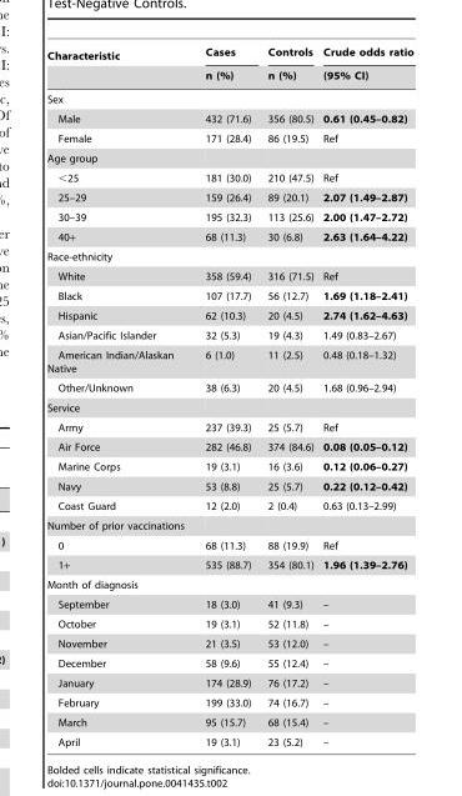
<table><thead><tr><td rowspan="2">Characteristic</td><td rowspan="2">Cases n (%)</td><td rowspan="2">Controls n (%)</td><td rowspan="2">Crude odds ratio (95% CI)</td></tr><tr></tr></thead><tbody><tr><td colspan="4">Sex</td></tr><tr><td>Male</td><td>432 (71.6)</td><td>356 (80.5)</td><td>0.61 (0.45–0.82)</td></tr><tr><td>Female</td><td>171 (28.4)</td><td>86 (19.5)</td><td>Ref</td></tr><tr><td colspan="4">Age group</td></tr><tr><td>&lt;25</td><td>181 (30.0)</td><td>210 (47.5)</td><td>Ref</td></tr><tr><td>25–29</td><td>159 (26.4)</td><td>89 (20.1)</td><td>2.07 (1.49–2.87)</td></tr><tr><td>30–39</td><td>195 (32.3)</td><td>113 (25.6)</td><td>2.00 (1.47–2.72)</td></tr><tr><td>40+</td><td>68 (11.3)</td><td>30 (6.8)</td><td>2.63 (1.64–4.22)</td></tr><tr><td colspan="4">Race-ethnicity</td></tr><tr><td>White</td><td>358 (59.4)</td><td>316 (71.5)</td><td>Ref</td></tr><tr><td>Black</td><td>107 (17.7)</td><td>56 (12.7)</td><td>1.69 (1.18–2.41)</td></tr><tr><td>Hispanic</td><td>62 (10.3)</td><td>20 (4.5)</td><td>2.74 (1.62–4.63)</td></tr><tr><td>Asian/Pacific Islander</td><td>32 (5.3)</td><td>19 (4.3)</td><td>1.49 (0.83–2.67)</td></tr><tr><td>American Indian/Alaskan Native</td><td>6 (1.0)</td><td>11 (2.5)</td><td>0.48 (0.18–1.32)</td></tr><tr><td>Other/Unknown</td><td>38 (6.3)</td><td>20 (4.5)</td><td>1.68 (0.96–2.94)</td></tr><tr><td colspan="4">Service</td></tr><tr><td>Army</td><td>237 (39.3)</td><td>25 (5.7)</td><td>Ref</td></tr><tr><td>Air Force</td><td>282 (46.8)</td><td>374 (84.6)</td><td>0.08 (0.05–0.12)</td></tr><tr><td>Marine Corps</td><td>19 (3.1)</td><td>16 (3.6)</td><td>0.12 (0.06–0.27)</td></tr><tr><td>Navy</td><td>53 (8.8)</td><td>25 (5.7)</td><td>0.22 (0.12–0.42)</td></tr><tr><td>Coast Guard</td><td>12 (2.0)</td><td>2 (0.4)</td><td>0.63 (0.13–2.99)</td></tr><tr><td colspan="4">Number of prior vaccinations</td></tr><tr><td>0</td><td>68 (11.3)</td><td>88 (19.9)</td><td>Ref</td></tr><tr><td>1+</td><td>535 (88.7)</td><td>354 (80.1)</td><td>1.96 (1.39–2.76)</td></tr><tr><td colspan="4">Month of diagnosis</td></tr><tr><td>September</td><td>18 (3.0)</td><td>41 (9.3)</td><td>–</td></tr><tr><td>October</td><td>19 (3.1)</td><td>52 (11.8)</td><td>–</td></tr><tr><td>November</td><td>21 (3.5)</td><td>53 (12.0)</td><td>–</td></tr><tr><td>December</td><td>58 (9.6)</td><td>55 (12.4)</td><td>–</td></tr><tr><td>January</td><td>174 (28.9)</td><td>76 (17.2)</td><td>–</td></tr><tr><td>February</td><td>199 (33.0)</td><td>74 (16.7)</td><td>–</td></tr><tr><td>March</td><td>95 (15.7)</td><td>68 (15.4)</td><td>–</td></tr><tr><td>April</td><td>19 (3.1)</td><td>23 (5.2)</td><td>–</td></tr></tbody></table>